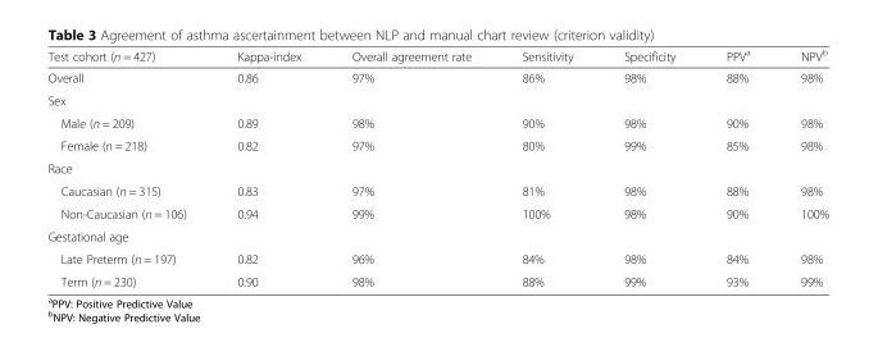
<table><thead><tr><td>Test cohort (n = 427)</td><td>Kappa-index</td><td>Overall agreement rate</td><td>Sensitivity</td><td>Specificity</td><td>PPV<sup>a</sup></td><td>NPV<sup>b</sup></td></tr></thead><tbody><tr><td>Overall</td><td>0.86</td><td>97%</td><td>86%</td><td>98%</td><td>88%</td><td>98%</td></tr><tr><td colspan="7">Sex</td></tr><tr><td>Male (n = 209)</td><td>0.89</td><td>98%</td><td>90%</td><td>98%</td><td>90%</td><td>98%</td></tr><tr><td>Female (n = 218)</td><td>0.82</td><td>97%</td><td>80%</td><td>99%</td><td>85%</td><td>98%</td></tr><tr><td colspan="7">Race</td></tr><tr><td>Caucasian (n = 315)</td><td>0.83</td><td>97%</td><td>81%</td><td>98%</td><td>88%</td><td>98%</td></tr><tr><td>Non-Caucasian (n = 106)</td><td>0.94</td><td>99%</td><td>100%</td><td>98%</td><td>90%</td><td>100%</td></tr><tr><td colspan="7">Gestational age</td></tr><tr><td>Late Preterm (n = 197)</td><td>0.82</td><td>96%</td><td>84%</td><td>98%</td><td>84%</td><td>98%</td></tr><tr><td>Term (n = 230)</td><td>0.90</td><td>98%</td><td>88%</td><td>99%</td><td>93%</td><td>99%</td></tr></tbody></table>